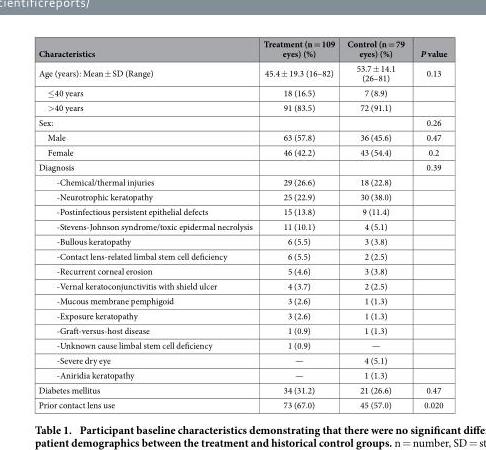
<table><thead><tr><td>Characteristics</td><td>Treatment (n = 109 eyes) (%)</td><td>Control (n = 79 eyes) (%)</td><td>P value</td></tr></thead><tbody><tr><td>Age (years): Mean ± SD (Range)</td><td>45.4 ± 19.3 (16–82)</td><td>53.7 ± 14.1 (26–81)</td><td>0.13</td></tr><tr><td>≤ 40 years</td><td>18 (16.5)</td><td>7 (8.9)</td><td></td></tr><tr><td>&gt; 40 years</td><td>91 (83.5)</td><td>72 (91.1)</td><td></td></tr><tr><td>Sex:</td><td></td><td></td><td>0.26</td></tr><tr><td>Male</td><td>63 (57.8)</td><td>36 (45.6)</td><td>0.47</td></tr><tr><td>Female</td><td>46 (42.2)</td><td>43 (54.4)</td><td>0.2</td></tr><tr><td>Diagnosis</td><td></td><td></td><td>0.39</td></tr><tr><td>-Chemical/thermal injuries</td><td>29 (26.6)</td><td>18 (22.8)</td><td></td></tr><tr><td>-Neurotrophic keratopathy</td><td>25 (22.9)</td><td>30 (38.0)</td><td></td></tr><tr><td>-Postinfectious persistent epithelial defects</td><td>15 (13.8)</td><td>9 (11.4)</td><td></td></tr><tr><td>-Stevens-Johnson syndrome/toxic epidermal necrolysis</td><td>11 (10.1)</td><td>4 (5.1)</td><td></td></tr><tr><td>-Bullous keratopathy</td><td>6 (5.5)</td><td>3 (3.8)</td><td></td></tr><tr><td>-Contact lens-related limbal stem cell deficiency</td><td>6 (5.5)</td><td>2 (2.5)</td><td></td></tr><tr><td>-Recurrent corneal erosion</td><td>5 (4.6)</td><td>3 (3.8)</td><td></td></tr><tr><td>-Vernal keratoconjunctivitis with shield ulcer</td><td>4 (3.7)</td><td>2 (2.5)</td><td></td></tr><tr><td>-Mucous membrane pemphigoid</td><td>3 (2.6)</td><td>1 (1.3)</td><td></td></tr><tr><td>-Exposure keratopathy</td><td>3 (2.6)</td><td>1 (1.3)</td><td></td></tr><tr><td>-Graft-versus-host disease</td><td>1 (0.9)</td><td>1 (1.3)</td><td></td></tr><tr><td>-Unknown cause limbal stem cell deficiency</td><td>1 (0.9)</td><td>—</td><td></td></tr><tr><td>-Severe dry eye</td><td>—</td><td>4 (5.1)</td><td></td></tr><tr><td>-Aniridia keratopathy</td><td>—</td><td>1 (1.3)</td><td></td></tr><tr><td>Diabetes mellitus</td><td>34 (31.2)</td><td>21 (26.6)</td><td>0.47</td></tr><tr><td>Prior contact lens use</td><td>73 (67.0)</td><td>45 (57.0)</td><td>0.020</td></tr></tbody></table>